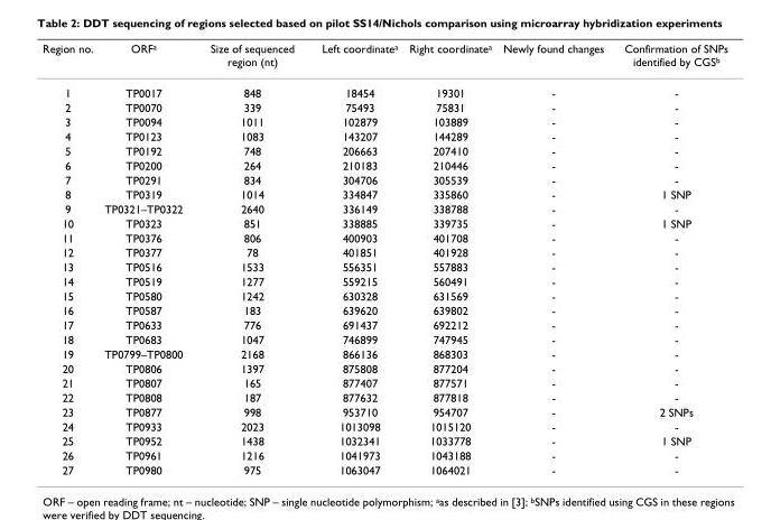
<table><thead><tr><td>Region no.</td><td>ORF<sup>a</sup></td><td>Size of sequenced region (nt)</td><td>Left coordinate<sup>a</sup></td><td>Right coordinate<sup>a</sup></td><td>Newly found changes</td><td>Confirmation of SNPs identified by CGS<sup>b</sup></td></tr></thead><tbody><tr><td>1</td><td>TP0017</td><td>848</td><td>18454</td><td>19301</td><td>-</td><td>-</td></tr><tr><td>2</td><td>TP0070</td><td>339</td><td>75493</td><td>75831</td><td>-</td><td>-</td></tr><tr><td>3</td><td>TP0094</td><td>1011</td><td>102879</td><td>103889</td><td>-</td><td>-</td></tr><tr><td>4</td><td>TP0123</td><td>1083</td><td>143207</td><td>144289</td><td>-</td><td>-</td></tr><tr><td>5</td><td>TP0192</td><td>748</td><td>206663</td><td>207410</td><td>-</td><td>-</td></tr><tr><td>6</td><td>TP0200</td><td>264</td><td>210183</td><td>210446</td><td>-</td><td>-</td></tr><tr><td>7</td><td>TP0291</td><td>834</td><td>304706</td><td>305539</td><td>-</td><td>-</td></tr><tr><td>8</td><td>TP0319</td><td>1014</td><td>334847</td><td>335860</td><td>-</td><td>1 SNP</td></tr><tr><td>9</td><td>TP0321–TP0322</td><td>2640</td><td>336149</td><td>338788</td><td>-</td><td>-</td></tr><tr><td>10</td><td>TP0323</td><td>851</td><td>338885</td><td>339735</td><td>-</td><td>1 SNP</td></tr><tr><td>11</td><td>TP0376</td><td>806</td><td>400903</td><td>401708</td><td>-</td><td>-</td></tr><tr><td>12</td><td>TP0377</td><td>78</td><td>401851</td><td>401928</td><td>-</td><td>-</td></tr><tr><td>13</td><td>TP0516</td><td>1533</td><td>556351</td><td>557883</td><td>-</td><td>-</td></tr><tr><td>14</td><td>TP0519</td><td>1277</td><td>559215</td><td>560491</td><td>-</td><td>-</td></tr><tr><td>15</td><td>TP0580</td><td>1242</td><td>630328</td><td>631569</td><td>-</td><td>-</td></tr><tr><td>16</td><td>TP0587</td><td>183</td><td>639620</td><td>639802</td><td>-</td><td>-</td></tr><tr><td>17</td><td>TP0633</td><td>776</td><td>691437</td><td>692212</td><td>-</td><td>-</td></tr><tr><td>18</td><td>TP0683</td><td>1047</td><td>746899</td><td>747945</td><td>-</td><td>-</td></tr><tr><td>19</td><td>TP0799–TP0800</td><td>2168</td><td>866136</td><td>868303</td><td>-</td><td>-</td></tr><tr><td>20</td><td>TP0806</td><td>1397</td><td>875808</td><td>877204</td><td>-</td><td>-</td></tr><tr><td>21</td><td>TP0807</td><td>165</td><td>877407</td><td>877571</td><td>-</td><td>-</td></tr><tr><td>22</td><td>TP0808</td><td>187</td><td>877632</td><td>877818</td><td>-</td><td>-</td></tr><tr><td>23</td><td>TP0877</td><td>998</td><td>953710</td><td>954707</td><td>-</td><td>2 SNPs</td></tr><tr><td>24</td><td>TP0933</td><td>2023</td><td>1013098</td><td>1015120</td><td>-</td><td>-</td></tr><tr><td>25</td><td>TP0952</td><td>1438</td><td>1032341</td><td>1033778</td><td>-</td><td>1 SNP</td></tr><tr><td>26</td><td>TP0961</td><td>1216</td><td>1041973</td><td>1043188</td><td>-</td><td>-</td></tr><tr><td>27</td><td>TP0980</td><td>975</td><td>1063047</td><td>1064021</td><td>-</td><td>-</td></tr></tbody></table>